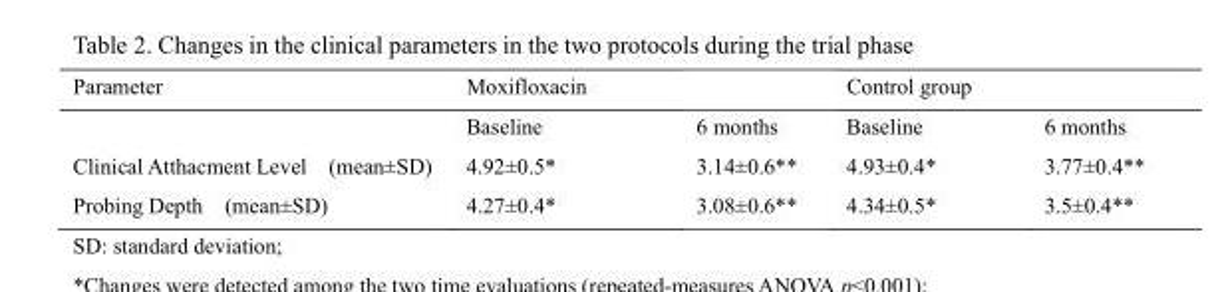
<table><thead><tr><td>Parameter</td><td>Moxifloxacin</td><td></td><td>Control group</td><td></td></tr></thead><tbody><tr><td></td><td>Baseline</td><td>6 months</td><td>Baseline</td><td>6 months</td></tr><tr><td>Clinical Atthacment Level (mean±SD)</td><td>4.92±0.5*</td><td>3.14±0.6**</td><td>4.93±0.4*</td><td>3.77±0.4**</td></tr><tr><td>Probing Depth (mean±SD)</td><td>4.27±0.4*</td><td>3.08±0.6**</td><td>4.34±0.5*</td><td>3.5±0.4**</td></tr></tbody></table>